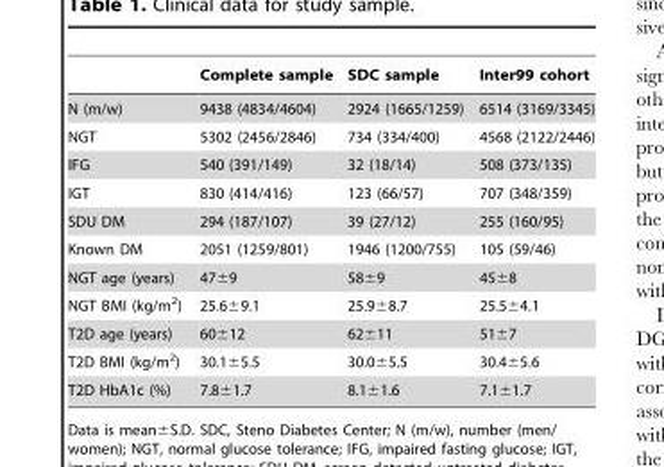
<table><thead><tr><td></td><td>Complete sample</td><td>SDC sample</td><td>Inter99 cohort</td></tr></thead><tbody><tr><td>N (m/w)</td><td>9438 (4834/4604)</td><td>2924 (1665/1259)</td><td>6514 (3169/3345)</td></tr><tr><td>NGT</td><td>5302 (2456/2846)</td><td>734 (334/400)</td><td>4568 (2122/2446)</td></tr><tr><td>IFG</td><td>540 (391/149)</td><td>32 (18/14)</td><td>508 (373/135)</td></tr><tr><td>IGT</td><td>830 (414/416)</td><td>123 (66/57)</td><td>707 (348/359)</td></tr><tr><td>SDU DM</td><td>294 (187/107)</td><td>39 (27/12)</td><td>255 (160/95)</td></tr><tr><td>Known DM</td><td>2051 (1259/801)</td><td>1946 (1200/755)</td><td>105 (59/46)</td></tr><tr><td>NGT age (years)</td><td>47±9</td><td>58±9</td><td>45±8</td></tr><tr><td>NGT BMI (kg/m<sup>2</sup>)</td><td>25.6±9.1</td><td>25.9±8.7</td><td>25.5±4.1</td></tr><tr><td>T2D age (years)</td><td>60±12</td><td>62±11</td><td>51±7</td></tr><tr><td>T2D BMI (kg/m<sup>2</sup>)</td><td>30.1±5.5</td><td>30.0±5.5</td><td>30.4±5.6</td></tr><tr><td>T2D HbA1c (%)</td><td>7.8±1.7</td><td>8.1±1.6</td><td>7.1±1.7</td></tr></tbody></table>